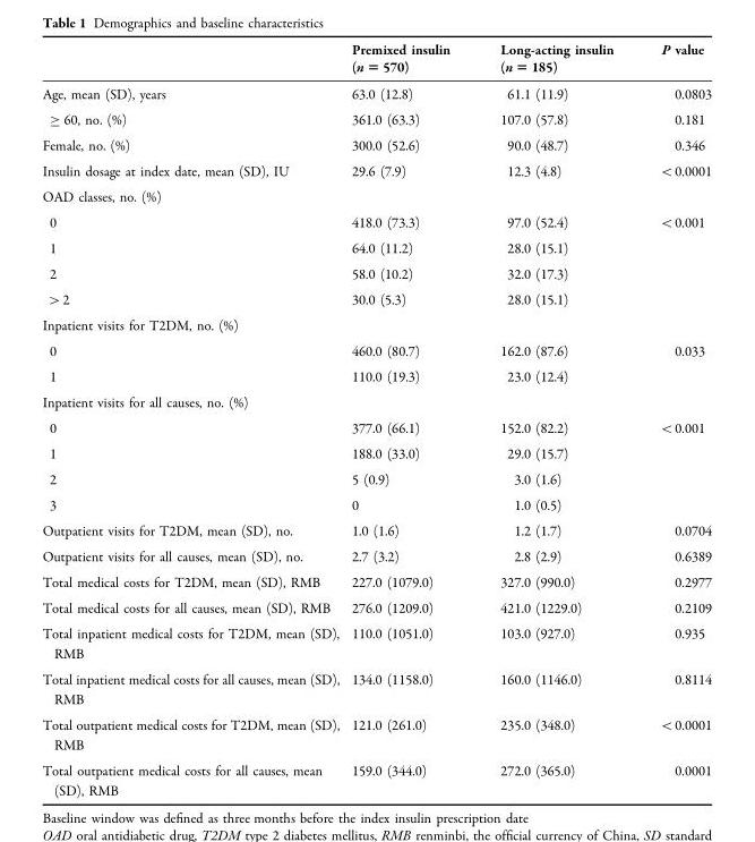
<table><thead><tr><td></td><td>Premixed insulin (n = 570)</td><td>Long-acting insulin (n = 185)</td><td>P value</td></tr></thead><tbody><tr><td>Age, mean (SD), years</td><td>63.0 (12.8)</td><td>61.1 (11.9)</td><td>0.0803</td></tr><tr><td>≥ 60, no. (%)</td><td>361.0 (63.3)</td><td>107.0 (57.8)</td><td>0.181</td></tr><tr><td>Female, no. (%)</td><td>300.0 (52.6)</td><td>90.0 (48.7)</td><td>0.346</td></tr><tr><td>Insulin dosage at index date, mean (SD), IU</td><td>29.6 (7.9)</td><td>12.3 (4.8)</td><td>&lt;0.0001</td></tr><tr><td colspan="4">OAD classes, no. (%)</td></tr><tr><td>0</td><td>418.0 (73.3)</td><td>97.0 (52.4)</td><td rowspan="4">&lt;0.001</td></tr><tr><td>1</td><td>64.0 (11.2)</td><td>28.0 (15.1)</td></tr><tr><td>2</td><td>58.0 (10.2)</td><td>32.0 (17.3)</td></tr><tr><td>&gt;2</td><td>30.0 (5.3)</td><td>28.0 (15.1)</td></tr><tr><td colspan="4">Inpatient visits for T2DM, no. (%)</td></tr><tr><td>0</td><td>460.0 (80.7)</td><td>162.0 (87.6)</td><td>0.033</td></tr><tr><td>1</td><td>110.0 (19.3)</td><td>23.0 (12.4)</td><td></td></tr><tr><td colspan="4">Inpatient visits for all causes, no. (%)</td></tr><tr><td>0</td><td>377.0 (66.1)</td><td>152.0 (82.2)</td><td>&lt;0.001</td></tr><tr><td>1</td><td>188.0 (33.0)</td><td>29.0 (15.7)</td><td></td></tr><tr><td>2</td><td>5 (0.9)</td><td>3.0 (1.6)</td><td></td></tr><tr><td>3</td><td>0</td><td>1.0 (0.5)</td><td></td></tr><tr><td>Outpatient visits for T2DM, mean (SD), no.</td><td>1.0 (1.6)</td><td>1.2 (1.7)</td><td>0.0704</td></tr><tr><td>Outpatient visits for all causes, mean (SD), no.</td><td>2.7 (3.2)</td><td>2.8 (2.9)</td><td>0.6389</td></tr><tr><td>Total medical costs for T2DM, mean (SD), RMB</td><td>227.0 (1079.0)</td><td>327.0 (990.0)</td><td>0.2977</td></tr><tr><td>Total medical costs for all causes, mean (SD), RMB</td><td>276.0 (1209.0)</td><td>421.0 (1229.0)</td><td>0.2109</td></tr><tr><td>Total inpatient medical costs for T2DM, mean (SD), RMB</td><td>110.0 (1051.0)</td><td>103.0 (927.0)</td><td>0.935</td></tr><tr><td>Total inpatient medical costs for all causes, mean (SD), RMB</td><td>134.0 (1158.0)</td><td>160.0 (1146.0)</td><td>0.8114</td></tr><tr><td>Total outpatient medical costs for T2DM, mean (SD), RMB</td><td>121.0 (261.0)</td><td>235.0 (348.0)</td><td>&lt;0.0001</td></tr><tr><td>Total outpatient medical costs for all causes, mean (SD), RMB</td><td>159.0 (344.0)</td><td>272.0 (365.0)</td><td>0.0001</td></tr></tbody></table>